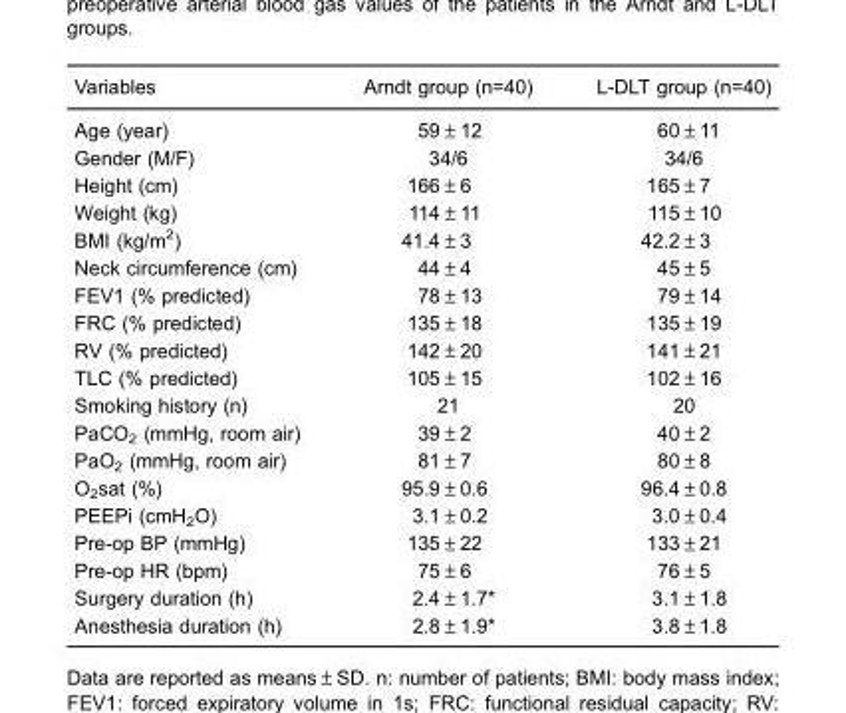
<table><thead><tr><td>Variables</td><td>Arndt group (n=40)</td><td>L-DLT group (n=40)</td></tr></thead><tbody><tr><td>Age (year)</td><td>59±12</td><td>60±11</td></tr><tr><td>Gender (M/F)</td><td>34/6</td><td>34/6</td></tr><tr><td>Height (cm)</td><td>166±6</td><td>165±7</td></tr><tr><td>Weight (kg)</td><td>114±11</td><td>115±10</td></tr><tr><td>BMI (kg/m2)</td><td>41.4±3</td><td>42.2±3</td></tr><tr><td>Neck circumference (cm)</td><td>44±4</td><td>45±5</td></tr><tr><td>FEV1 (% predicted)</td><td>78±13</td><td>79±14</td></tr><tr><td>FRC (% predicted)</td><td>135±18</td><td>135±19</td></tr><tr><td>RV (% predicted)</td><td>142±20</td><td>141±21</td></tr><tr><td>TLC (% predicted)</td><td>105±15</td><td>102±16</td></tr><tr><td>Smoking history (n)</td><td>21</td><td>20</td></tr><tr><td>PaCO2 (mmHg, room air)</td><td>39±2</td><td>40±2</td></tr><tr><td>PaO2 (mmHg, room air)</td><td>81±7</td><td>80±8</td></tr><tr><td>O2sat (%)</td><td>95.9±0.6</td><td>96.4±0.8</td></tr><tr><td>PEEPi (cmH2O)</td><td>3.1±0.2</td><td>3.0±0.4</td></tr><tr><td>Pre-op BP (mmHg)</td><td>135±22</td><td>133±21</td></tr><tr><td>Pre-op HR (bpm)</td><td>75±6</td><td>76±5</td></tr><tr><td>Surgery duration (h)</td><td>2.4±1.7*</td><td>3.1±1.8</td></tr><tr><td>Anesthesia duration (h)</td><td>2.8±1.9*</td><td>3.8±1.8</td></tr></tbody></table>